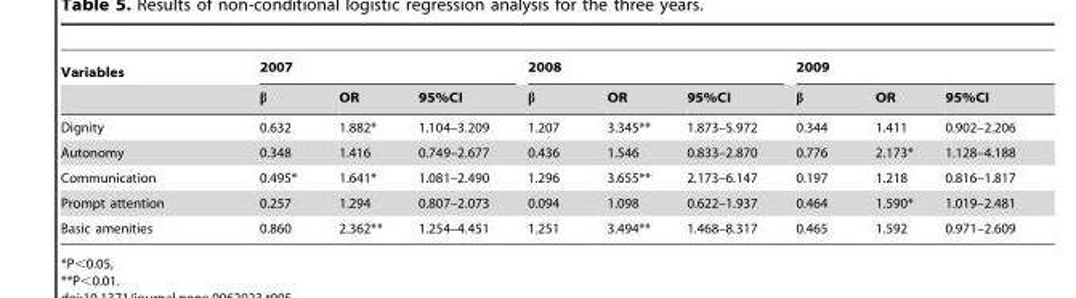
<table><thead><tr><td rowspan="2">Variables</td><td colspan="3">2007</td><td colspan="3">2008</td><td colspan="3">2009</td></tr><tr><td>β</td><td>OR</td><td>95%CI</td><td>β</td><td>OR</td><td>95%CI</td><td>β</td><td>OR</td><td>95%CI</td></tr></thead><tbody><tr><td>Dignity</td><td>0.632</td><td>1.882*</td><td>1.104–3.209</td><td>1.207</td><td>3.345**</td><td>1.873–5.972</td><td>0.344</td><td>1.411</td><td>0.902–2.206</td></tr><tr><td>Autonomy</td><td>0.348</td><td>1.416</td><td>0.749–2.677</td><td>0.436</td><td>1.546</td><td>0.833–2.870</td><td>0.776</td><td>2.173*</td><td>1.128–4.188</td></tr><tr><td>Communication</td><td>0.495*</td><td>1.641*</td><td>1.081–2.490</td><td>1.296</td><td>3.655**</td><td>2.173–6.147</td><td>0.197</td><td>1.218</td><td>0.816–1.817</td></tr><tr><td>Prompt attention</td><td>0.257</td><td>1.294</td><td>0.807–2.073</td><td>0.094</td><td>1.098</td><td>0.622–1.937</td><td>0.464</td><td>1.590*</td><td>1.019–2.481</td></tr><tr><td>Basic amenities</td><td>0.860</td><td>2.362**</td><td>1.254–4.451</td><td>1.251</td><td>3.494**</td><td>1.468–8.317</td><td>0.465</td><td>1.592</td><td>0.971–2.609</td></tr></tbody></table>